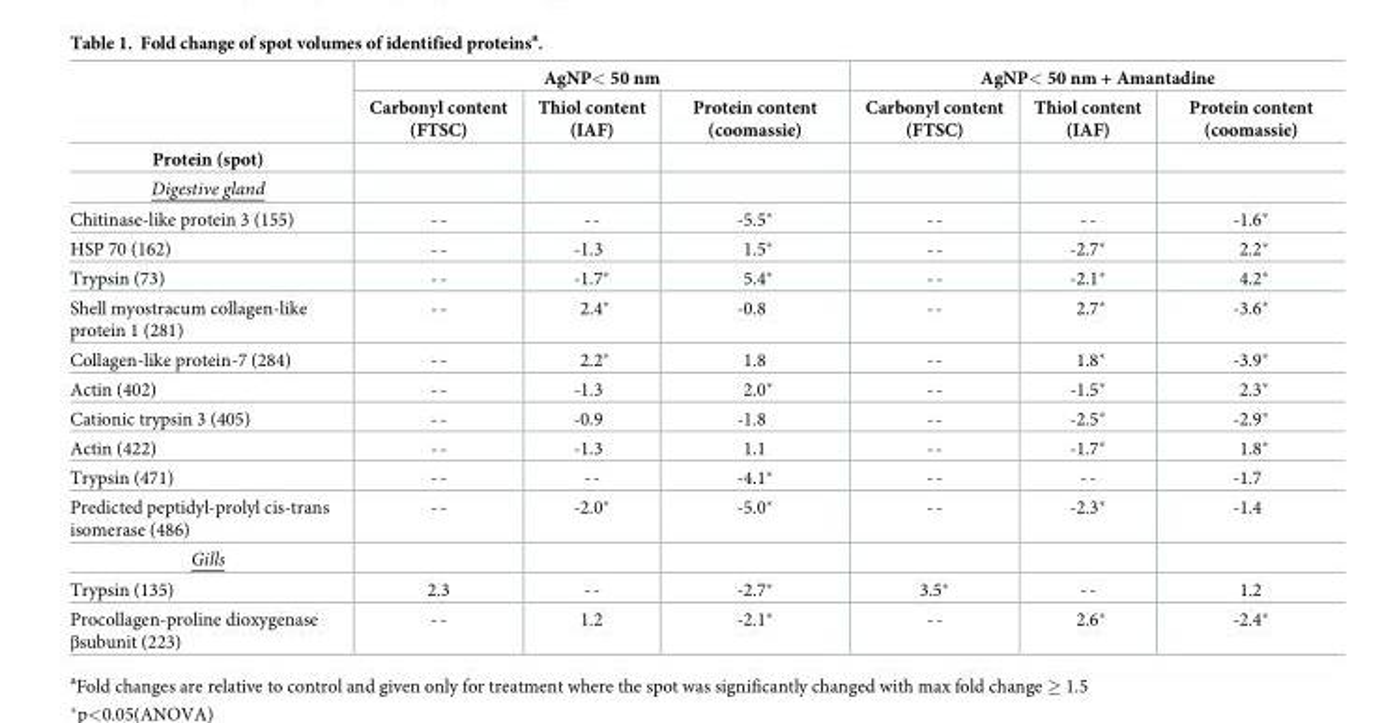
<table><thead><tr><td rowspan="2"></td><td colspan="3">AgNP&lt; 50 nm</td><td colspan="3">AgNP&lt; 50 nm + Amantadine</td></tr><tr><td>Carbonyl content (FTSC)</td><td>Thiol content (IAF)</td><td>Protein content (coomassie)</td><td>Carbonyl content (FTSC)</td><td>Thiol content (IAF)</td><td>Protein content (coomassie)</td></tr></thead><tbody><tr><td colspan="7">Protein (spot)</td></tr><tr><td colspan="7">Digestive gland</td></tr><tr><td>Chitinase-like protein 3 (155)</td><td>--</td><td>--</td><td>-5.5*</td><td>--</td><td>--</td><td>-1.6*</td></tr><tr><td>HSP 70 (162)</td><td>--</td><td>-1.3</td><td>1.5*</td><td>--</td><td>-2.7*</td><td>2.2*</td></tr><tr><td>Trypsin (73)</td><td>--</td><td>-1.7*</td><td>5.4*</td><td>--</td><td>-2.1*</td><td>4.2*</td></tr><tr><td>Shell myostracum collagen-like protein 1 (281)</td><td>--</td><td>2.4*</td><td>-0.8</td><td>--</td><td>2.7*</td><td>-3.6*</td></tr><tr><td>Collagen-like protein-7 (284)</td><td>--</td><td>2.2*</td><td>1.8</td><td>--</td><td>1.8*</td><td>-3.9*</td></tr><tr><td>Actin (402)</td><td>--</td><td>-1.3</td><td>2.0*</td><td>--</td><td>-1.5*</td><td>2.3*</td></tr><tr><td>Cationic trypsin 3 (405)</td><td>--</td><td>-0.9</td><td>-1.8</td><td>--</td><td>-2.5*</td><td>-2.9*</td></tr><tr><td>Actin (422)</td><td>--</td><td>-1.3</td><td>1.1</td><td>--</td><td>-1.7*</td><td>1.8*</td></tr><tr><td>Trypsin (471)</td><td>--</td><td>--</td><td>-4.1*</td><td>--</td><td>--</td><td>-1.7</td></tr><tr><td>Predicted peptidyl-prolyl cis-trans isomerase (486)</td><td>--</td><td>-2.0*</td><td>-5.0*</td><td>--</td><td>-2.3*</td><td>-1.4</td></tr><tr><td colspan="7">Gills</td></tr><tr><td>Trypsin (135)</td><td>2.3</td><td>--</td><td>-2.7*</td><td>3.5*</td><td>--</td><td>1.2</td></tr><tr><td>Procollagen-proline dioxygenase βsubunit (223)</td><td>--</td><td>1.2</td><td>-2.1*</td><td>--</td><td>2.6*</td><td>-2.4*</td></tr></tbody></table>